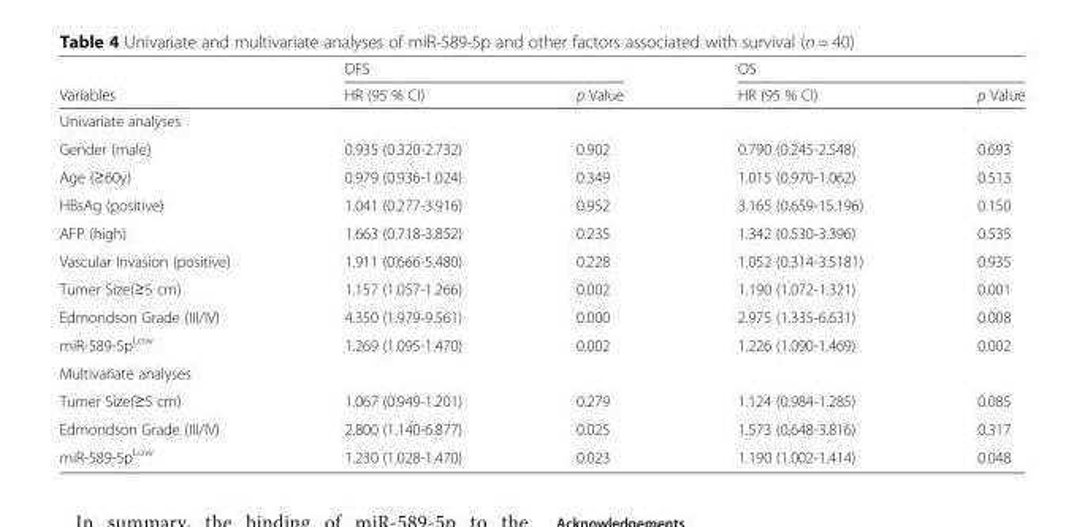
<table><thead><tr><td rowspan="2">Variables</td><td colspan="2">DFS</td><td colspan="2">OS</td></tr><tr><td>HR (95 % CI)</td><td>p Value</td><td>HR (95 % CI)</td><td>p Value</td></tr></thead><tbody><tr><td colspan="5">Univariate analyses</td></tr><tr><td>Gender (male)</td><td>0.935 (0.320-2.732)</td><td>0.902</td><td>0.790 (0.245-2.548)</td><td>0.693</td></tr><tr><td>Age (≥60y)</td><td>0.979 (0.936-1.024)</td><td>0.349</td><td>1.015 (0.970-1.062)</td><td>0.513</td></tr><tr><td>HBsAg (positive)</td><td>1.041 (0.277-3.916)</td><td>0.952</td><td>3.165 (0.659-15.196)</td><td>0.150</td></tr><tr><td>AFP (high)</td><td>1.663 (0.718-3.852)</td><td>0.235</td><td>1.342 (0.530-3.396)</td><td>0.535</td></tr><tr><td>Vascular Invasion (positive)</td><td>1.911 (0.666-5.480)</td><td>0.228</td><td>1.052 (0.314-3.5181)</td><td>0.935</td></tr><tr><td>Tumer Size(≥5 cm)</td><td>1.157 (1.057-1.266)</td><td>0.002</td><td>1.190 (1.072-1.321)</td><td>0.001</td></tr><tr><td>Edmondson Grade (III/IV)</td><td>4.350 (1.979-9.561)</td><td>0.000</td><td>2.975 (1.335-6.631)</td><td>0.008</td></tr><tr><td>miR-589-5p<sup>Low</sup></td><td>1.269 (1.095-1.470)</td><td>0.002</td><td>1.226 (1.090-1.469)</td><td>0.002</td></tr><tr><td colspan="5">Multivariate analyses</td></tr><tr><td>Tumer Size(≥5 cm)</td><td>1.067 (0.949-1.201)</td><td>0.279</td><td>1.124 (0.984-1.285)</td><td>0.085</td></tr><tr><td>Edmondson Grade (III/IV)</td><td>2.800 (1.140-6.877)</td><td>0.025</td><td>1.573 (0.648-3.816)</td><td>0.317</td></tr><tr><td>miR-589-5p<sup>Low</sup></td><td>1.230 (1.028-1.470)</td><td>0.023</td><td>1.190 (1.002-1.414)</td><td>0.048</td></tr></tbody></table>